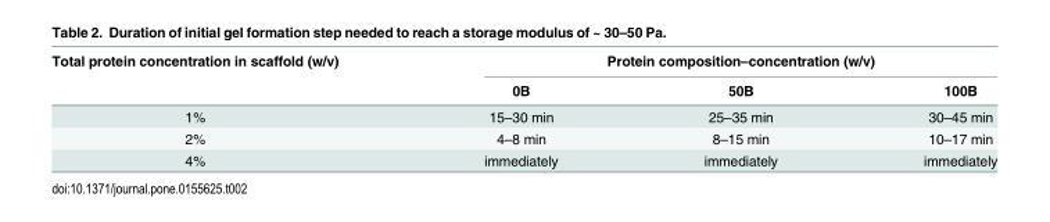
<table><thead><tr><td rowspan="2">Total protein concentration in scaffold (w/v)</td><td colspan="3">Protein composition–concentration (w/v)</td></tr><tr><td>0B</td><td>50B</td><td>100B</td></tr></thead><tbody><tr><td>1%</td><td>15–30 min</td><td>25–35 min</td><td>30–45 min</td></tr><tr><td>2%</td><td>4–8 min</td><td>8–15 min</td><td>10–17 min</td></tr><tr><td>4%</td><td>immediately</td><td>immediately</td><td>immediately</td></tr></tbody></table>